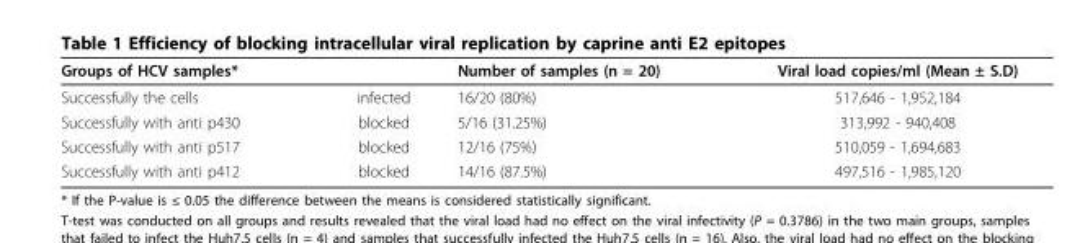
<table><thead><tr><td colspan="2">Groups of HCV samples*</td><td rowspan="2">Number of samples (n = 20) 16/20 (80%)</td><td rowspan="2">Viral load copies/ml (Mean ± S.D) 517,646 - 1,952,184</td></tr><tr><td>Successfully the cells</td><td>infected</td></tr></thead><tbody><tr><td>Successfully with anti p430</td><td>blocked</td><td>5/16 (31.25%)</td><td>313,992 - 940,408</td></tr><tr><td>Successfully with anti p517</td><td>blocked</td><td>12/16 (75%)</td><td>510,059 - 1,694,683</td></tr><tr><td>Successfully with anti p412</td><td>blocked</td><td>14/16 (87.5%)</td><td>497,516 - 1,985,120</td></tr></tbody></table>